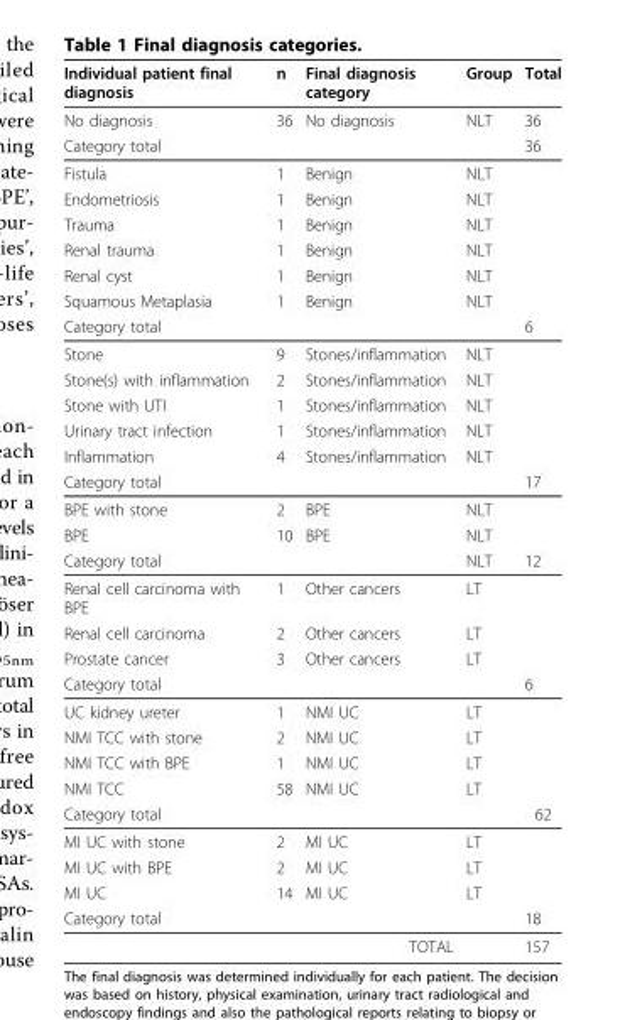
<table><thead><tr><td>Individual patient final diagnosis</td><td>n</td><td>Final diagnosis category</td><td>Group</td><td>Total</td></tr></thead><tbody><tr><td>No diagnosis</td><td>36</td><td>No diagnosis</td><td>NLT</td><td>36</td></tr><tr><td>Category total</td><td></td><td></td><td></td><td>36</td></tr><tr><td>Fistula</td><td>1</td><td>Benign</td><td>NLT</td><td></td></tr><tr><td>Endometriosis</td><td>1</td><td>Benign</td><td>NLT</td><td></td></tr><tr><td>Trauma</td><td>1</td><td>Benign</td><td>NLT</td><td></td></tr><tr><td>Renal trauma</td><td>1</td><td>Benign</td><td>NLT</td><td></td></tr><tr><td>Renal cyst</td><td>1</td><td>Benign</td><td>NLT</td><td></td></tr><tr><td>Squamous Metaplasia</td><td>1</td><td>Benign</td><td>NLT</td><td></td></tr><tr><td>Category total</td><td></td><td></td><td></td><td>6</td></tr><tr><td>Stone</td><td>9</td><td>Stones/inflammation</td><td>NLT</td><td></td></tr><tr><td>Stone(s) with inflammation</td><td>2</td><td>Stones/inflammation</td><td>NLT</td><td></td></tr><tr><td>Stone with UTI</td><td>1</td><td>Stones/inflammation</td><td>NLT</td><td></td></tr><tr><td>Urinary tract infection</td><td>1</td><td>Stones/inflammation</td><td>NLT</td><td></td></tr><tr><td>Inflammation</td><td>4</td><td>Stones/inflammation</td><td>NLT</td><td></td></tr><tr><td>Category total</td><td></td><td></td><td></td><td>17</td></tr><tr><td>BPE with stone</td><td>2</td><td>BPE</td><td>NLT</td><td></td></tr><tr><td>BPE</td><td>10</td><td>BPE</td><td>NLT</td><td></td></tr><tr><td>Category total</td><td></td><td></td><td>NLT</td><td>12</td></tr><tr><td>Renal cell carcinoma with BPE</td><td>1</td><td>Other cancers</td><td>LT</td><td></td></tr><tr><td>Renal cell carcinoma</td><td>2</td><td>Other cancers</td><td>LT</td><td></td></tr><tr><td>Prostate cancer</td><td>3</td><td>Other cancers</td><td>LT</td><td></td></tr><tr><td>Category total</td><td></td><td></td><td></td><td>6</td></tr><tr><td>UC kidney ureter</td><td>1</td><td>NMI UC</td><td>LT</td><td></td></tr><tr><td>NMI TCC with stone</td><td>2</td><td>NMI UC</td><td>LT</td><td></td></tr><tr><td>NMI TCC with BPE</td><td>1</td><td>NMI UC</td><td>LT</td><td></td></tr><tr><td>NMI TCC</td><td>58</td><td>NMI UC</td><td>LT</td><td></td></tr><tr><td>Category total</td><td></td><td></td><td></td><td>62</td></tr><tr><td>MI UC with stone</td><td>2</td><td>MI UC</td><td>LT</td><td></td></tr><tr><td>MI UC with BPE</td><td>2</td><td>MI UC</td><td>LT</td><td></td></tr><tr><td>MI UC</td><td>14</td><td>MI UC</td><td>LT</td><td></td></tr><tr><td>Category total</td><td></td><td></td><td></td><td>18</td></tr><tr><td colspan="3">TOTAL</td><td></td><td>157</td></tr></tbody></table>